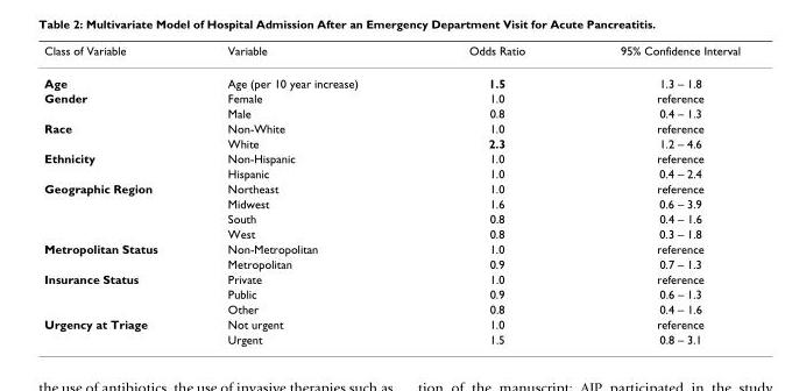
<table><thead><tr><td>Class of Variable</td><td>Variable</td><td>Odds Ratio</td><td>95% Confidence Interval</td></tr></thead><tbody><tr><td>Age</td><td>Age (per 10 year increase)</td><td>1.5</td><td>1.3 – 1.8</td></tr><tr><td rowspan="2">Gender</td><td>Female</td><td>1.0</td><td>reference</td></tr><tr><td>Male</td><td>0.8</td><td>0.4 – 1.3</td></tr><tr><td rowspan="2">Race</td><td>Non-White</td><td>1.0</td><td>reference</td></tr><tr><td>White</td><td>2.3</td><td>1.2 – 4.6</td></tr><tr><td rowspan="2">Ethnicity</td><td>Non-Hispanic</td><td>1.0</td><td>reference</td></tr><tr><td>Hispanic</td><td>1.0</td><td>0.4 – 2.4</td></tr><tr><td rowspan="4">Geographic Region</td><td>Northeast</td><td>1.0</td><td>reference</td></tr><tr><td>Midwest</td><td>1.6</td><td>0.6 – 3.9</td></tr><tr><td>South</td><td>0.8</td><td>0.4 – 1.6</td></tr><tr><td>West</td><td>0.8</td><td>0.3 – 1.8</td></tr><tr><td rowspan="2">Metropolitan Status</td><td>Non-Metropolitan</td><td>1.0</td><td>reference</td></tr><tr><td>Metropolitan</td><td>0.9</td><td>0.7 – 1.3</td></tr><tr><td rowspan="3">Insurance Status</td><td>Private</td><td>1.0</td><td>reference</td></tr><tr><td>Public</td><td>0.9</td><td>0.6 – 1.3</td></tr><tr><td>Other</td><td>0.8</td><td>0.4 – 1.6</td></tr><tr><td rowspan="2">Urgency at Triage</td><td>Not urgent</td><td>1.0</td><td>reference</td></tr><tr><td>Urgent</td><td>1.5</td><td>0.8 – 3.1</td></tr></tbody></table>